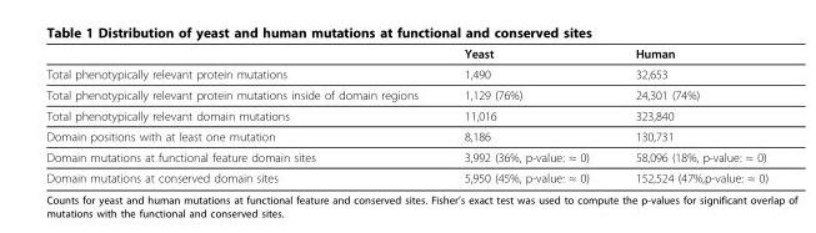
<table><thead><tr><td></td><td>Yeast</td><td>Human</td></tr></thead><tbody><tr><td>Total phenotypically relevant protein mutations</td><td>1,490</td><td>32,653</td></tr><tr><td>Total phenotypically relevant protein mutations inside of domain regions</td><td>1,129 (76%)</td><td>24,301 (74%)</td></tr><tr><td>Total phenotypically relevant domain mutations</td><td>11,016</td><td>323,840</td></tr><tr><td>Domain positions with at least one mutation</td><td>8,186</td><td>130,731</td></tr><tr><td>Domain mutations at functional feature domain sites</td><td>3,992 (36%, p-value: ≈ 0)</td><td>58,096 (18%, p-value: ≈ 0)</td></tr><tr><td>Domain mutations at conserved domain sites</td><td>5,950 (45%, p-value: ≈ 0)</td><td>152,524 (47%,p-value: ≈ 0)</td></tr></tbody></table>